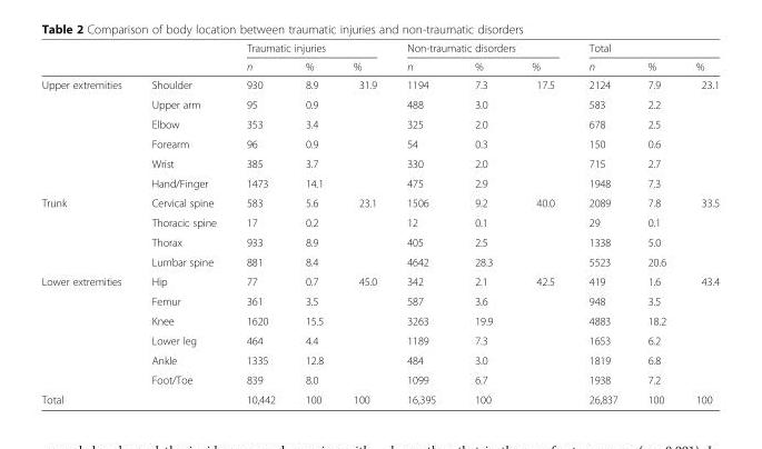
<table><thead><tr><td rowspan="2"></td><td rowspan="2"></td><td colspan="3">Traumatic injuries</td><td colspan="3">Non-traumatic disorders</td><td colspan="3">Total</td></tr><tr><td>n</td><td>%</td><td>%</td><td>n</td><td>%</td><td>%</td><td>n</td><td>%</td><td>%</td></tr></thead><tbody><tr><td rowspan="6">Upper extremities</td><td>Shoulder</td><td>930</td><td>8.9</td><td rowspan="6">31.9</td><td>1194</td><td>7.3</td><td>17.5</td><td>2124</td><td>7.9</td><td rowspan="6">23.1</td></tr><tr><td>Upper arm</td><td>95</td><td>0.9</td><td>488</td><td>3.0</td><td></td><td>583</td><td>2.2</td></tr><tr><td>Elbow</td><td>353</td><td>3.4</td><td>325</td><td>2.0</td><td></td><td>678</td><td>2.5</td></tr><tr><td>Forearm</td><td>96</td><td>0.9</td><td>54</td><td>0.3</td><td></td><td>150</td><td>0.6</td></tr><tr><td>Wrist</td><td>385</td><td>3.7</td><td>330</td><td>2.0</td><td></td><td>715</td><td>2.7</td></tr><tr><td>Hand/Finger</td><td>1473</td><td>14.1</td><td>475</td><td>2.9</td><td></td><td>1948</td><td>7.3</td></tr><tr><td rowspan="4">Trunk</td><td>Cervical spine</td><td>583</td><td>5.6</td><td rowspan="4">23.1</td><td>1506</td><td>9.2</td><td>40.0</td><td>2089</td><td>7.8</td><td rowspan="4">33.5</td></tr><tr><td>Thoracic spine</td><td>17</td><td>0.2</td><td>12</td><td>0.1</td><td></td><td>29</td><td>0.1</td></tr><tr><td>Thorax</td><td>933</td><td>8.9</td><td>405</td><td>2.5</td><td></td><td>1338</td><td>5.0</td></tr><tr><td>Lumbar spine</td><td>881</td><td>8.4</td><td>4642</td><td>28.3</td><td></td><td>5523</td><td>20.6</td></tr><tr><td rowspan="6">Lower extremities</td><td>Hip</td><td>77</td><td>0.7</td><td rowspan="6">45.0</td><td>342</td><td>2.1</td><td>42.5</td><td>419</td><td>1.6</td><td rowspan="6">43.4</td></tr><tr><td>Femur</td><td>361</td><td>3.5</td><td>587</td><td>3.6</td><td></td><td>948</td><td>3.5</td></tr><tr><td>Knee</td><td>1620</td><td>15.5</td><td>3263</td><td>19.9</td><td></td><td>4883</td><td>18.2</td></tr><tr><td>Lower leg</td><td>464</td><td>4.4</td><td>1189</td><td>7.3</td><td></td><td>1653</td><td>6.2</td></tr><tr><td>Ankle</td><td>1335</td><td>12.8</td><td>484</td><td>3.0</td><td></td><td>1819</td><td>6.8</td></tr><tr><td>Foot/Toe</td><td>839</td><td>8.0</td><td>1099</td><td>6.7</td><td></td><td>1938</td><td>7.2</td></tr><tr><td>Total</td><td></td><td>10,442</td><td>100</td><td>100</td><td>16,395</td><td>100</td><td></td><td>26,837</td><td>100</td><td>100</td></tr></tbody></table>